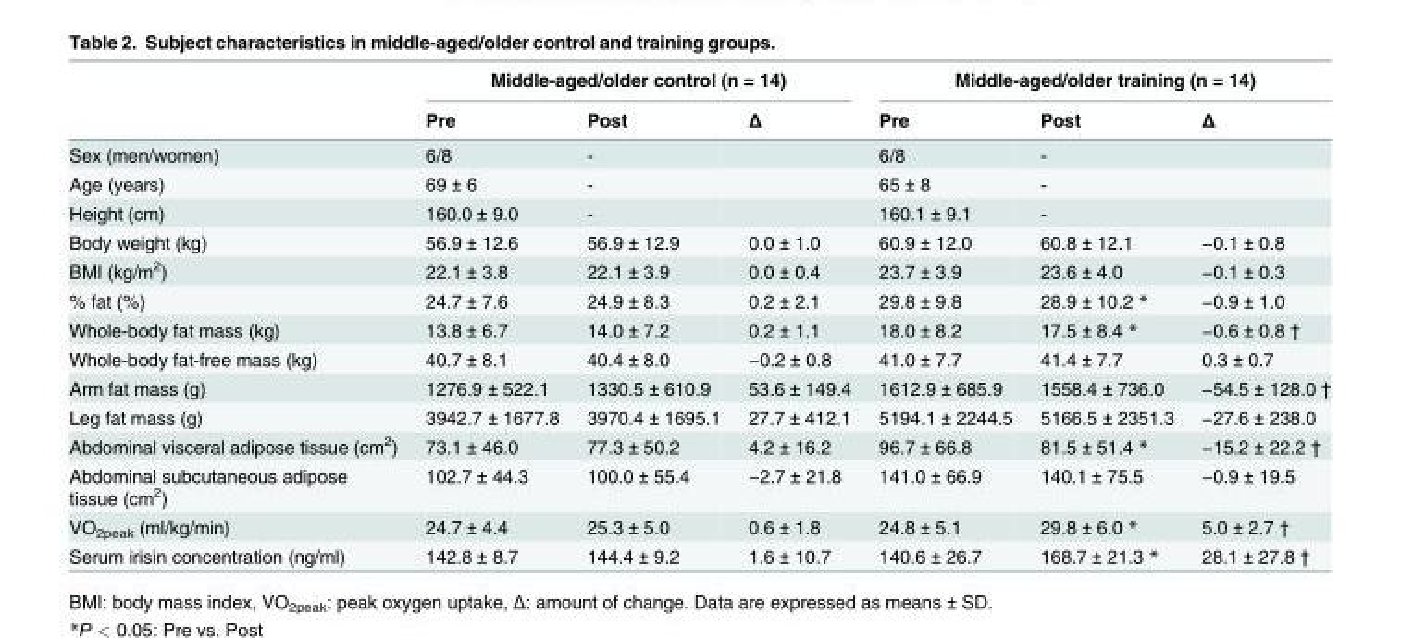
<table><thead><tr><td rowspan="2"></td><td colspan="3">Middle-aged/older control (n = 14)</td><td colspan="3">Middle-aged/older training (n = 14)</td></tr><tr><td>Pre</td><td>Post</td><td>Δ</td><td>Pre</td><td>Post</td><td>Δ</td></tr></thead><tbody><tr><td>Sex (men/women)</td><td>6/8</td><td>-</td><td></td><td>6/8</td><td>-</td><td></td></tr><tr><td>Age (years)</td><td>69 ± 6</td><td>-</td><td></td><td>65 ± 8</td><td>-</td><td></td></tr><tr><td>Height (cm)</td><td>160.0 ± 9.0</td><td>-</td><td></td><td>160.1 ± 9.1</td><td>-</td><td></td></tr><tr><td>Body weight (kg)</td><td>56.9 ± 12.6</td><td>56.9 ± 12.9</td><td>0.0 ± 1.0</td><td>60.9 ± 12.0</td><td>60.8 ± 12.1</td><td>−0.1 ± 0.8</td></tr><tr><td>BMI (kg/m<sup>2</sup>)</td><td>22.1 ± 3.8</td><td>22.1 ± 3.9</td><td>0.0 ± 0.4</td><td>23.7 ± 3.9</td><td>23.6 ± 4.0</td><td>−0.1 ± 0.3</td></tr><tr><td>% fat (%)</td><td>24.7 ± 7.6</td><td>24.9 ± 8.3</td><td>0.2 ± 2.1</td><td>29.8 ± 9.8</td><td>28.9 ± 10.2 *</td><td>−0.9 ± 1.0</td></tr><tr><td>Whole-body fat mass (kg)</td><td>13.8 ± 6.7</td><td>14.0 ± 7.2</td><td>0.2 ± 1.1</td><td>18.0 ± 8.2</td><td>17.5 ± 8.4 *</td><td>−0.6 ± 0.8 †</td></tr><tr><td>Whole-body fat-free mass (kg)</td><td>40.7 ± 8.1</td><td>40.4 ± 8.0</td><td>−0.2 ± 0.8</td><td>41.0 ± 7.7</td><td>41.4 ± 7.7</td><td>0.3 ± 0.7</td></tr><tr><td>Arm fat mass (g)</td><td>1276.9 ± 522.1</td><td>1330.5 ± 610.9</td><td>53.6 ± 149.4</td><td>1612.9 ± 685.9</td><td>1558.4 ± 736.0</td><td>−54.5 ± 128.0 †</td></tr><tr><td>Leg fat mass (g)</td><td>3942.7 ± 1677.8</td><td>3970.4 ± 1695.1</td><td>27.7 ± 412.1</td><td>5194.1 ± 2244.5</td><td>5166.5 ± 2351.3</td><td>−27.6 ± 238.0</td></tr><tr><td>Abdominal visceral adipose tissue (cm<sup>2</sup>)</td><td>73.1 ± 46.0</td><td>77.3 ± 50.2</td><td>4.2 ± 16.2</td><td>96.7 ± 66.8</td><td>81.5 ± 51.4 *</td><td>−15.2 ± 22.2 †</td></tr><tr><td>Abdominal subcutaneous adipose tissue (cm<sup>2</sup>)</td><td>102.7 ± 44.3</td><td>100.0 ± 55.4</td><td>−2.7 ± 21.8</td><td>141.0 ± 66.9</td><td>140.1 ± 75.5</td><td>−0.9 ± 19.5</td></tr><tr><td>VO<sub>2peak</sub> (ml/kg/min)</td><td>24.7 ± 4.4</td><td>25.3 ± 5.0</td><td>0.6 ± 1.8</td><td>24.8 ± 5.1</td><td>29.8 ± 6.0 *</td><td>5.0 ± 2.7 †</td></tr><tr><td>Serum irisin concentration (ng/ml)</td><td>142.8 ± 8.7</td><td>144.4 ± 9.2</td><td>1.6 ± 10.7</td><td>140.6 ± 26.7</td><td>168.7 ± 21.3 *</td><td>28.1 ± 27.8 †</td></tr></tbody></table>